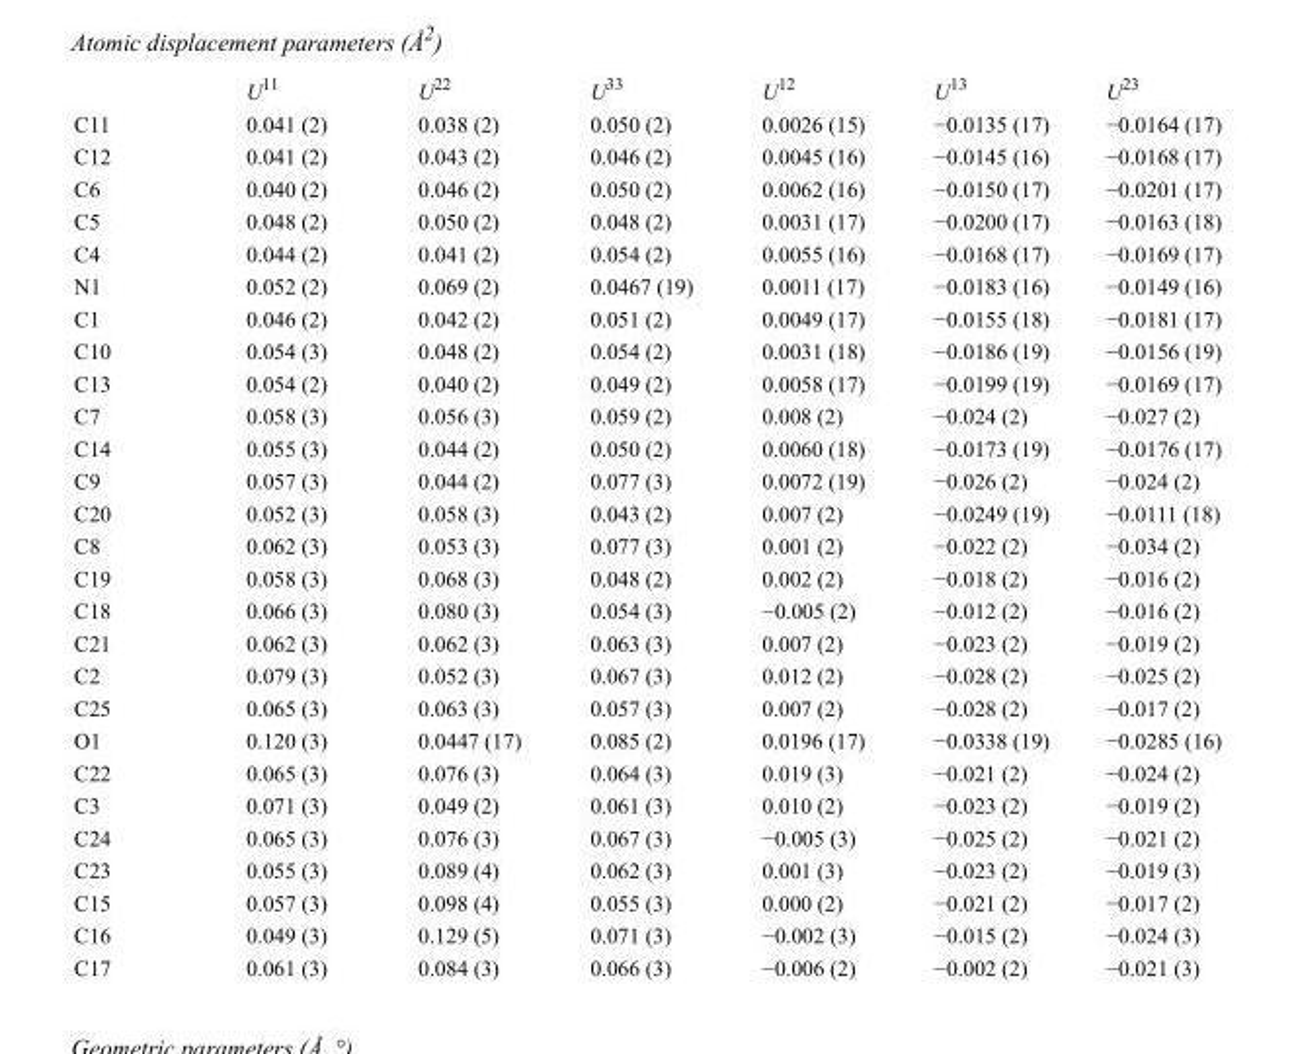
<table><thead><tr><td></td><td>U<sup>11</sup></td><td>U<sup>22</sup></td><td>U<sup>33</sup></td><td>U<sup>12</sup></td><td>U<sup>13</sup></td><td>U<sup>23</sup></td></tr></thead><tbody><tr><td>C11</td><td>0.041 (2)</td><td>0.038 (2)</td><td>0.050 (2)</td><td>0.0026 (15)</td><td>−0.0135 (17)</td><td>−0.0164 (17)</td></tr><tr><td>C12</td><td>0.041 (2)</td><td>0.043 (2)</td><td>0.046 (2)</td><td>0.0045 (16)</td><td>−0.0145 (16)</td><td>−0.0168 (17)</td></tr><tr><td>C6</td><td>0.040 (2)</td><td>0.046 (2)</td><td>0.050 (2)</td><td>0.0062 (16)</td><td>−0.0150 (17)</td><td>−0.0201 (17)</td></tr><tr><td>C5</td><td>0.048 (2)</td><td>0.050 (2)</td><td>0.048 (2)</td><td>0.0031 (17)</td><td>−0.0200 (17)</td><td>−0.0163 (18)</td></tr><tr><td>C4</td><td>0.044 (2)</td><td>0.041 (2)</td><td>0.054 (2)</td><td>0.0055 (16)</td><td>−0.0168 (17)</td><td>−0.0169 (17)</td></tr><tr><td>N1</td><td>0.052 (2)</td><td>0.069 (2)</td><td>0.0467 (19)</td><td>0.0011 (17)</td><td>−0.0183 (16)</td><td>−0.0149 (16)</td></tr><tr><td>C1</td><td>0.046 (2)</td><td>0.042 (2)</td><td>0.051 (2)</td><td>0.0049 (17)</td><td>−0.0155 (18)</td><td>−0.0181 (17)</td></tr><tr><td>C10</td><td>0.054 (3)</td><td>0.048 (2)</td><td>0.054 (2)</td><td>0.0031 (18)</td><td>−0.0186 (19)</td><td>−0.0156 (19)</td></tr><tr><td>C13</td><td>0.054 (2)</td><td>0.040 (2)</td><td>0.049 (2)</td><td>0.0058 (17)</td><td>−0.0199 (19)</td><td>−0.0169 (17)</td></tr><tr><td>C7</td><td>0.058 (3)</td><td>0.056 (3)</td><td>0.059 (2)</td><td>0.008 (2)</td><td>−0.024 (2)</td><td>−0.027 (2)</td></tr><tr><td>C14</td><td>0.055 (3)</td><td>0.044 (2)</td><td>0.050 (2)</td><td>0.0060 (18)</td><td>−0.0173 (19)</td><td>−0.0176 (17)</td></tr><tr><td>C9</td><td>0.057 (3)</td><td>0.044 (2)</td><td>0.077 (3)</td><td>0.0072 (19)</td><td>−0.026 (2)</td><td>−0.024 (2)</td></tr><tr><td>C20</td><td>0.052 (3)</td><td>0.058 (3)</td><td>0.043 (2)</td><td>0.007 (2)</td><td>−0.0249 (19)</td><td>−0.0111 (18)</td></tr><tr><td>C8</td><td>0.062 (3)</td><td>0.053 (3)</td><td>0.077 (3)</td><td>0.001 (2)</td><td>−0.022 (2)</td><td>−0.034 (2)</td></tr><tr><td>C19</td><td>0.058 (3)</td><td>0.068 (3)</td><td>0.048 (2)</td><td>0.002 (2)</td><td>−0.018 (2)</td><td>−0.016 (2)</td></tr><tr><td>C18</td><td>0.066 (3)</td><td>0.080 (3)</td><td>0.054 (3)</td><td>−0.005 (2)</td><td>−0.012 (2)</td><td>−0.016 (2)</td></tr><tr><td>C21</td><td>0.062 (3)</td><td>0.062 (3)</td><td>0.063 (3)</td><td>0.007 (2)</td><td>−0.023 (2)</td><td>−0.019 (2)</td></tr><tr><td>C2</td><td>0.079 (3)</td><td>0.052 (3)</td><td>0.067 (3)</td><td>0.012 (2)</td><td>−0.028 (2)</td><td>−0.025 (2)</td></tr><tr><td>C25</td><td>0.065 (3)</td><td>0.063 (3)</td><td>0.057 (3)</td><td>0.007 (2)</td><td>−0.028 (2)</td><td>−0.017 (2)</td></tr><tr><td>O1</td><td>0.120 (3)</td><td>0.0447 (17)</td><td>0.085 (2)</td><td>0.0196 (17)</td><td>−0.0338 (19)</td><td>−0.0285 (16)</td></tr><tr><td>C22</td><td>0.065 (3)</td><td>0.076 (3)</td><td>0.064 (3)</td><td>0.019 (3)</td><td>−0.021 (2)</td><td>−0.024 (2)</td></tr><tr><td>C3</td><td>0.071 (3)</td><td>0.049 (2)</td><td>0.061 (3)</td><td>0.010 (2)</td><td>−0.023 (2)</td><td>−0.019 (2)</td></tr><tr><td>C24</td><td>0.065 (3)</td><td>0.076 (3)</td><td>0.067 (3)</td><td>−0.005 (3)</td><td>−0.025 (2)</td><td>−0.021 (2)</td></tr><tr><td>C23</td><td>0.055 (3)</td><td>0.089 (4)</td><td>0.062 (3)</td><td>0.001 (3)</td><td>−0.023 (2)</td><td>−0.019 (3)</td></tr><tr><td>C15</td><td>0.057 (3)</td><td>0.098 (4)</td><td>0.055 (3)</td><td>0.000 (2)</td><td>−0.021 (2)</td><td>−0.017 (2)</td></tr><tr><td>C16</td><td>0.049 (3)</td><td>0.129 (5)</td><td>0.071 (3)</td><td>−0.002 (3)</td><td>−0.015 (2)</td><td>−0.024 (3)</td></tr><tr><td>C17</td><td>0.061 (3)</td><td>0.084 (3)</td><td>0.066 (3)</td><td>−0.006 (2)</td><td>−0.002 (2)</td><td>−0.021 (3)</td></tr></tbody></table>